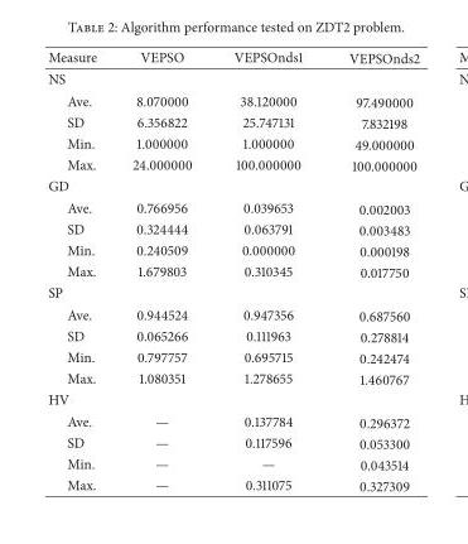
<table><thead><tr><td>Measure</td><td>VEPSO</td><td>VEPSOnds1</td><td>VEPSOnds2</td></tr></thead><tbody><tr><td colspan="4">NS</td></tr><tr><td>Ave.</td><td>8.070000</td><td>38.120000</td><td>97.490000</td></tr><tr><td>SD</td><td>6.356822</td><td>25.747131</td><td>7.832198</td></tr><tr><td>Min.</td><td>1.000000</td><td>1.000000</td><td>49.000000</td></tr><tr><td>Max.</td><td>24.000000</td><td>100.000000</td><td>100.000000</td></tr><tr><td colspan="4">GD</td></tr><tr><td>Ave.</td><td>0.766956</td><td>0.039653</td><td>0.002003</td></tr><tr><td>SD</td><td>0.324444</td><td>0.063791</td><td>0.003483</td></tr><tr><td>Min.</td><td>0.240509</td><td>0.000000</td><td>0.000198</td></tr><tr><td>Max.</td><td>1.679803</td><td>0.310345</td><td>0.017750</td></tr><tr><td colspan="4">SP</td></tr><tr><td>Ave.</td><td>0.944524</td><td>0.947356</td><td>0.687560</td></tr><tr><td>SD</td><td>0.065266</td><td>0.111963</td><td>0.278814</td></tr><tr><td>Min.</td><td>0.797757</td><td>0.695715</td><td>0.242474</td></tr><tr><td>Max.</td><td>1.080351</td><td>1.278655</td><td>1.460767</td></tr><tr><td colspan="4">HV</td></tr><tr><td>Ave.</td><td>—</td><td>0.137784</td><td>0.296372</td></tr><tr><td>SD</td><td>—</td><td>0.117596</td><td>0.053300</td></tr><tr><td>Min.</td><td>—</td><td>—</td><td>0.043514</td></tr><tr><td>Max.</td><td>—</td><td>0.311075</td><td>0.327309</td></tr></tbody></table>